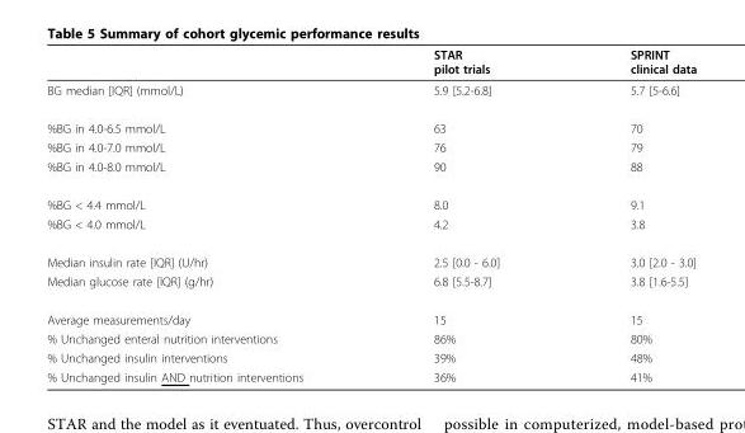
<table><thead><tr><td></td><td>STAR pilot trials</td><td>SPRINT clinical data</td></tr></thead><tbody><tr><td>BG median [IQR] (mmol/L)</td><td>5.9 [5.2-6.8]</td><td>5.7 [5-6.6]</td></tr><tr><td>%BG in 4.0-6.5 mmol/L</td><td>63</td><td>70</td></tr><tr><td>%BG in 4.0-7.0 mmol/L</td><td>76</td><td>79</td></tr><tr><td>%BG in 4.0-8.0 mmol/L</td><td>90</td><td>88</td></tr><tr><td>%BG &lt; 4.4 mmol/L</td><td>8.0</td><td>9.1</td></tr><tr><td>%BG &lt; 4.0 mmol/L</td><td>4.2</td><td>3.8</td></tr><tr><td>Median insulin rate [IQR] (U/hr)</td><td>2.5 [0.0 - 6.0]</td><td>3.0 [2.0 - 3.0]</td></tr><tr><td>Median glucose rate [IQR] (g/hr)</td><td>6.8 [5.5-8.7]</td><td>3.8 [1.6-5.5]</td></tr><tr><td>Average measurements/day</td><td>15</td><td>15</td></tr><tr><td>% Unchanged enteral nutrition interventions</td><td>86%</td><td>80%</td></tr><tr><td>% Unchanged insulin interventions</td><td>39%</td><td>48%</td></tr><tr><td>% Unchanged insulin AND nutrition interventions</td><td>36%</td><td>41%</td></tr></tbody></table>